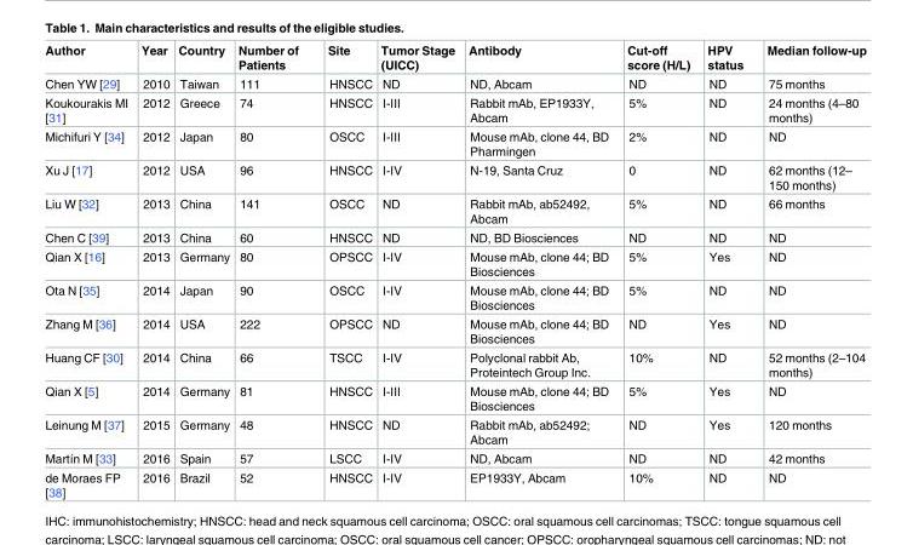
<table><thead><tr><td>Author</td><td>Year</td><td>Country</td><td>Number of Patients</td><td>Site</td><td>Tumor Stage (UICC)</td><td>Antibody</td><td>Cut-off score (H/L)</td><td>HPV status</td><td>Median follow-up</td></tr></thead><tbody><tr><td>Chen YW [29]</td><td>2010</td><td>Taiwan</td><td>111</td><td>HNSCC</td><td>ND</td><td>ND, Abcam</td><td>ND</td><td>ND</td><td>75 months</td></tr><tr><td>Koukourakis MI [31]</td><td>2012</td><td>Greece</td><td>74</td><td>HNSCC</td><td>I-III</td><td>Rabbit mAb, EP1933Y, Abcam</td><td>5%</td><td>ND</td><td>24 months (4–80 months)</td></tr><tr><td>Michifuri Y [34]</td><td>2012</td><td>Japan</td><td>80</td><td>OSCC</td><td>I-III</td><td>Mouse mAb, clone 44, BD Pharmingen</td><td>2%</td><td>ND</td><td>ND</td></tr><tr><td>Xu J [17]</td><td>2012</td><td>USA</td><td>96</td><td>HNSCC</td><td>I-IV</td><td>N-19, Santa Cruz</td><td>0</td><td>ND</td><td>62 months (12– 150 months)</td></tr><tr><td>Liu W [32]</td><td>2013</td><td>China</td><td>141</td><td>OSCC</td><td>ND</td><td>Rabbit mAb, ab52492, Abcam</td><td>5%</td><td>ND</td><td>66 months</td></tr><tr><td>Chen C [39]</td><td>2013</td><td>China</td><td>60</td><td>HNSCC</td><td>ND</td><td>ND, BD Biosciences</td><td>ND</td><td>ND</td><td>ND</td></tr><tr><td>Qian X [16]</td><td>2013</td><td>Germany</td><td>80</td><td>OPSCC</td><td>I-IV</td><td>Mouse mAb, clone 44; BD Biosciences</td><td>5%</td><td>Yes</td><td>ND</td></tr><tr><td>Ota N [35]</td><td>2014</td><td>Japan</td><td>90</td><td>OSCC</td><td>I-IV</td><td>Mouse mAb, clone 44; BD Biosciences</td><td>5%</td><td>ND</td><td>ND</td></tr><tr><td>Zhang M [36]</td><td>2014</td><td>USA</td><td>222</td><td>OPSCC</td><td>ND</td><td>Mouse mAb, clone 44; BD Biosciences</td><td>ND</td><td>Yes</td><td>ND</td></tr><tr><td>Huang CF [30]</td><td>2014</td><td>China</td><td>66</td><td>TSCC</td><td>I-IV</td><td>Polyclonal rabbit Ab, Proteintech Group Inc.</td><td>10%</td><td>ND</td><td>52 months (2–104 months)</td></tr><tr><td>Qian X [5]</td><td>2014</td><td>Germany</td><td>81</td><td>HNSCC</td><td>I-III</td><td>Mouse mAb, clone 44; BD Biosciences</td><td>5%</td><td>Yes</td><td>ND</td></tr><tr><td>Leinung M [37]</td><td>2015</td><td>Germany</td><td>48</td><td>HNSCC</td><td>ND</td><td>Rabbit mAb, ab52492; Abcam</td><td>ND</td><td>Yes</td><td>120 months</td></tr><tr><td>Martı´n M [33]</td><td>2016</td><td>Spain</td><td>57</td><td>LSCC</td><td>I-IV</td><td>ND, Abcam</td><td>ND</td><td>ND</td><td>42 months</td></tr><tr><td>de Moraes FP [38]</td><td>2016</td><td>Brazil</td><td>52</td><td>HNSCC</td><td>I-IV</td><td>EP1933Y, Abcam</td><td>10%</td><td>ND</td><td>ND</td></tr></tbody></table>